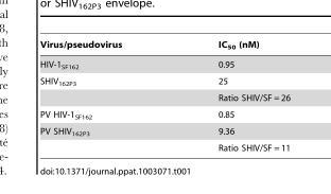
<table><thead><tr><td>Virus/pseudovirus</td><td>IC<sub>50</sub> (nM)</td></tr></thead><tbody><tr><td>HIV-1<sub>SF162</sub></td><td>0.95</td></tr><tr><td rowspan="2">SHIV<sub>162P3</sub></td><td>25</td></tr><tr><td>Ratio SHIV/SF = 26</td></tr><tr><td>PV HIV-1<sub>SF162</sub></td><td>0.85</td></tr><tr><td rowspan="2">PV SHIV<sub>162P3</sub></td><td>9.36</td></tr><tr><td>Ratio SHIV/SF = 11</td></tr></tbody></table>